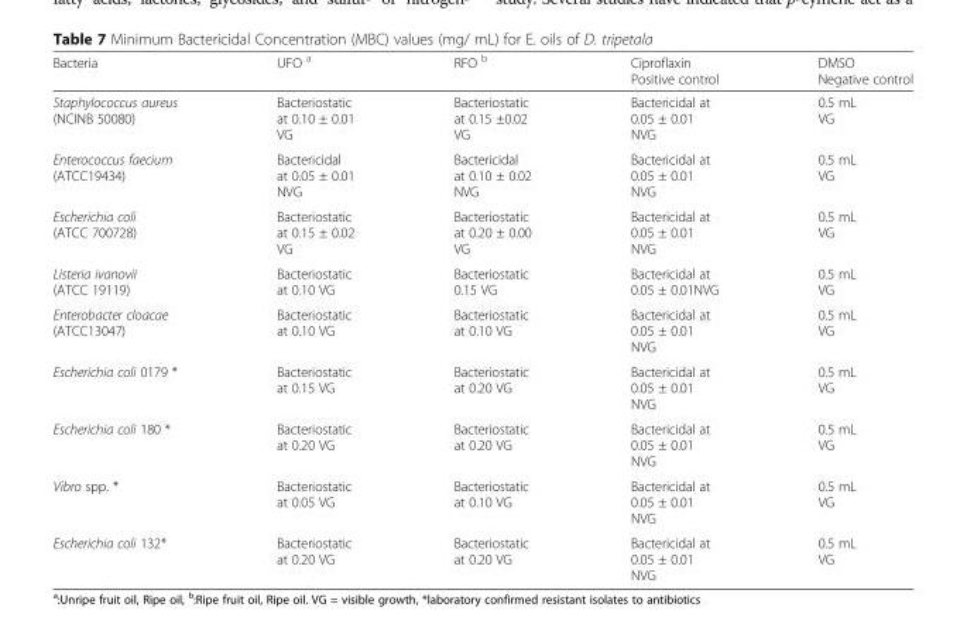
<table><thead><tr><td>Bacteria</td><td>UFO <sup>a</sup></td><td>RFO <sup>b</sup></td><td>Ciproflaxin Positive control</td><td>DMSO Negative control</td></tr></thead><tbody><tr><td>Staphylococcus aureus (NCINB 50080)</td><td>Bacteriostatic at 0.10 ± 0.01 VG</td><td>Bacteriostatic at 0.15 ±0.02 VG</td><td>Bactericidal at 0.05 ± 0.01 NVG</td><td>0.5 mL VG</td></tr><tr><td>Enterococcus faecium (ATCC19434)</td><td>Bactericidal at 0.05 ± 0.01 NVG</td><td>Bactericidal at 0.10 ± 0.02 NVG</td><td>Bactericidal at 0.05 ± 0.01 NVG</td><td>0.5 mL VG</td></tr><tr><td>Escherichia coli (ATCC 700728)</td><td>Bacteriostatic at 0.15 ± 0.02 VG</td><td>Bacteriostatic at 0.20 ± 0.00 VG</td><td>Bactericidal at 0.05 ± 0.01 NVG</td><td>0.5 mL VG</td></tr><tr><td>Listeria ivanovii (ATCC 19119)</td><td>Bacteriostatic at 0.10 VG</td><td>Bacteriostatic 0.15 VG</td><td>Bactericidal at 0.05 ± 0.01NVG</td><td>0.5 mL VG</td></tr><tr><td>Enterobacter cloacae (ATCC13047)</td><td>Bacteriostatic at 0.10 VG</td><td>Bacteriostatic at 0.10 VG</td><td>Bactericidal at 0.05 ± 0.01 NVG</td><td>0.5 mL VG</td></tr><tr><td>Escherichia coli 0179 *</td><td>Bacteriostatic at 0.15 VG</td><td>Bacteriostatic at 0.20 VG</td><td>Bactericidal at 0.05 ± 0.01 NVG</td><td>0.5 mL VG</td></tr><tr><td>Escherichia coli 180 *</td><td>Bacteriostatic at 0.20 VG</td><td>Bacteriostatic at 0.20 VG</td><td>Bactericidal at 0.05 ± 0.01 NVG</td><td>0.5 mL VG</td></tr><tr><td>Vibro spp. *</td><td>Bacteriostatic at 0.05 VG</td><td>Bacteriostatic at 0.10 VG</td><td>Bactericidal at 0.05 ± 0.01 NVG</td><td>0.5 mL VG</td></tr><tr><td>Escherichia coli 132*</td><td>Bacteriostatic at 0.20 VG</td><td>Bacteriostatic at 0.20 VG</td><td>Bactericidal at 0.05 ± 0.01 NVG</td><td>0.5 mL VG</td></tr></tbody></table>